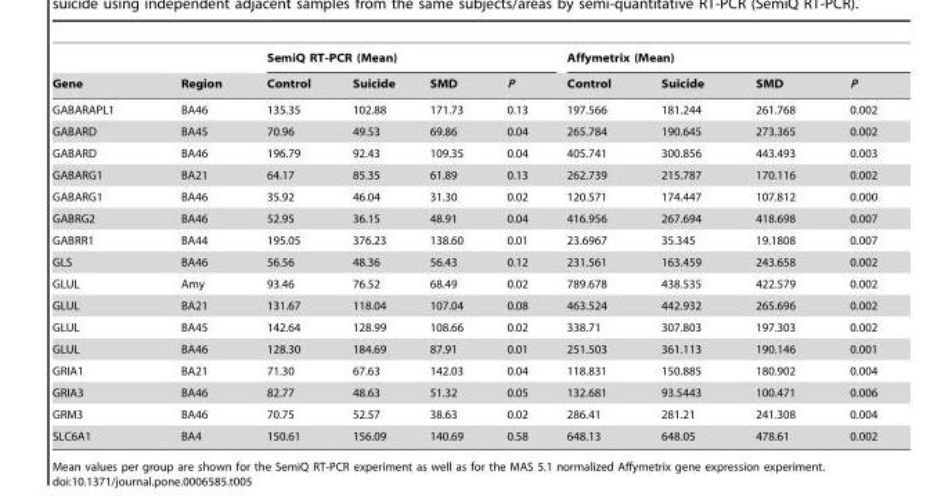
<table><thead><tr><td rowspan="2">Gene</td><td rowspan="2">Region</td><td colspan="4">SemiQ RT-PCR (Mean)</td><td colspan="4">Affymetrix (Mean)</td></tr><tr><td>Control</td><td>Suicide</td><td>SMD</td><td>P</td><td>Control</td><td>Suicide</td><td>SMD</td><td>P</td></tr></thead><tbody><tr><td>GABARAPL1</td><td>BA46</td><td>135.35</td><td>102.88</td><td>171.73</td><td>0.13</td><td>197.566</td><td>181.244</td><td>261.768</td><td>0.002</td></tr><tr><td>GABARD</td><td>BA45</td><td>70.96</td><td>49.53</td><td>69.86</td><td>0.04</td><td>265.784</td><td>190.645</td><td>273.365</td><td>0.002</td></tr><tr><td>GABARD</td><td>BA46</td><td>196.79</td><td>92.43</td><td>109.35</td><td>0.04</td><td>405.741</td><td>300.856</td><td>443.493</td><td>0.003</td></tr><tr><td>GABARG1</td><td>BA21</td><td>64.17</td><td>85.35</td><td>61.89</td><td>0.13</td><td>262.739</td><td>215.787</td><td>170.116</td><td>0.002</td></tr><tr><td>GABARG1</td><td>BA46</td><td>35.92</td><td>46.04</td><td>31.30</td><td>0.02</td><td>120.571</td><td>174.447</td><td>107.812</td><td>0.000</td></tr><tr><td>GABRG2</td><td>BA46</td><td>52.95</td><td>36.15</td><td>48.91</td><td>0.04</td><td>416.956</td><td>267.694</td><td>418.698</td><td>0.007</td></tr><tr><td>GABRR1</td><td>BA44</td><td>195.05</td><td>376.23</td><td>138.60</td><td>0.01</td><td>23.6967</td><td>35.345</td><td>19.1808</td><td>0.007</td></tr><tr><td>GLS</td><td>BA46</td><td>56.56</td><td>48.36</td><td>56.43</td><td>0.12</td><td>231.561</td><td>163.459</td><td>243.658</td><td>0.002</td></tr><tr><td>GLUL</td><td>Amy</td><td>93.46</td><td>76.52</td><td>68.49</td><td>0.02</td><td>789.678</td><td>438.535</td><td>422.579</td><td>0.002</td></tr><tr><td>GLUL</td><td>BA21</td><td>131.67</td><td>118.04</td><td>107.04</td><td>0.08</td><td>463.524</td><td>442.932</td><td>265.696</td><td>0.002</td></tr><tr><td>GLUL</td><td>BA45</td><td>142.64</td><td>128.99</td><td>108.66</td><td>0.02</td><td>338.71</td><td>307.803</td><td>197.303</td><td>0.002</td></tr><tr><td>GLUL</td><td>BA46</td><td>128.30</td><td>184.69</td><td>87.91</td><td>0.01</td><td>251.503</td><td>361.113</td><td>190.146</td><td>0.001</td></tr><tr><td>GRIA1</td><td>BA21</td><td>71.30</td><td>67.63</td><td>142.03</td><td>0.04</td><td>118.831</td><td>150.885</td><td>180.902</td><td>0.004</td></tr><tr><td>GRIA3</td><td>BA46</td><td>82.77</td><td>48.63</td><td>51.32</td><td>0.05</td><td>132.681</td><td>93.5443</td><td>100.471</td><td>0.006</td></tr><tr><td>GRM3</td><td>BA46</td><td>70.75</td><td>52.57</td><td>38.63</td><td>0.02</td><td>286.41</td><td>281.21</td><td>241.308</td><td>0.004</td></tr><tr><td>SLC6A1</td><td>BA4</td><td>150.61</td><td>156.09</td><td>140.69</td><td>0.58</td><td>648.13</td><td>648.05</td><td>478.61</td><td>0.002</td></tr></tbody></table>